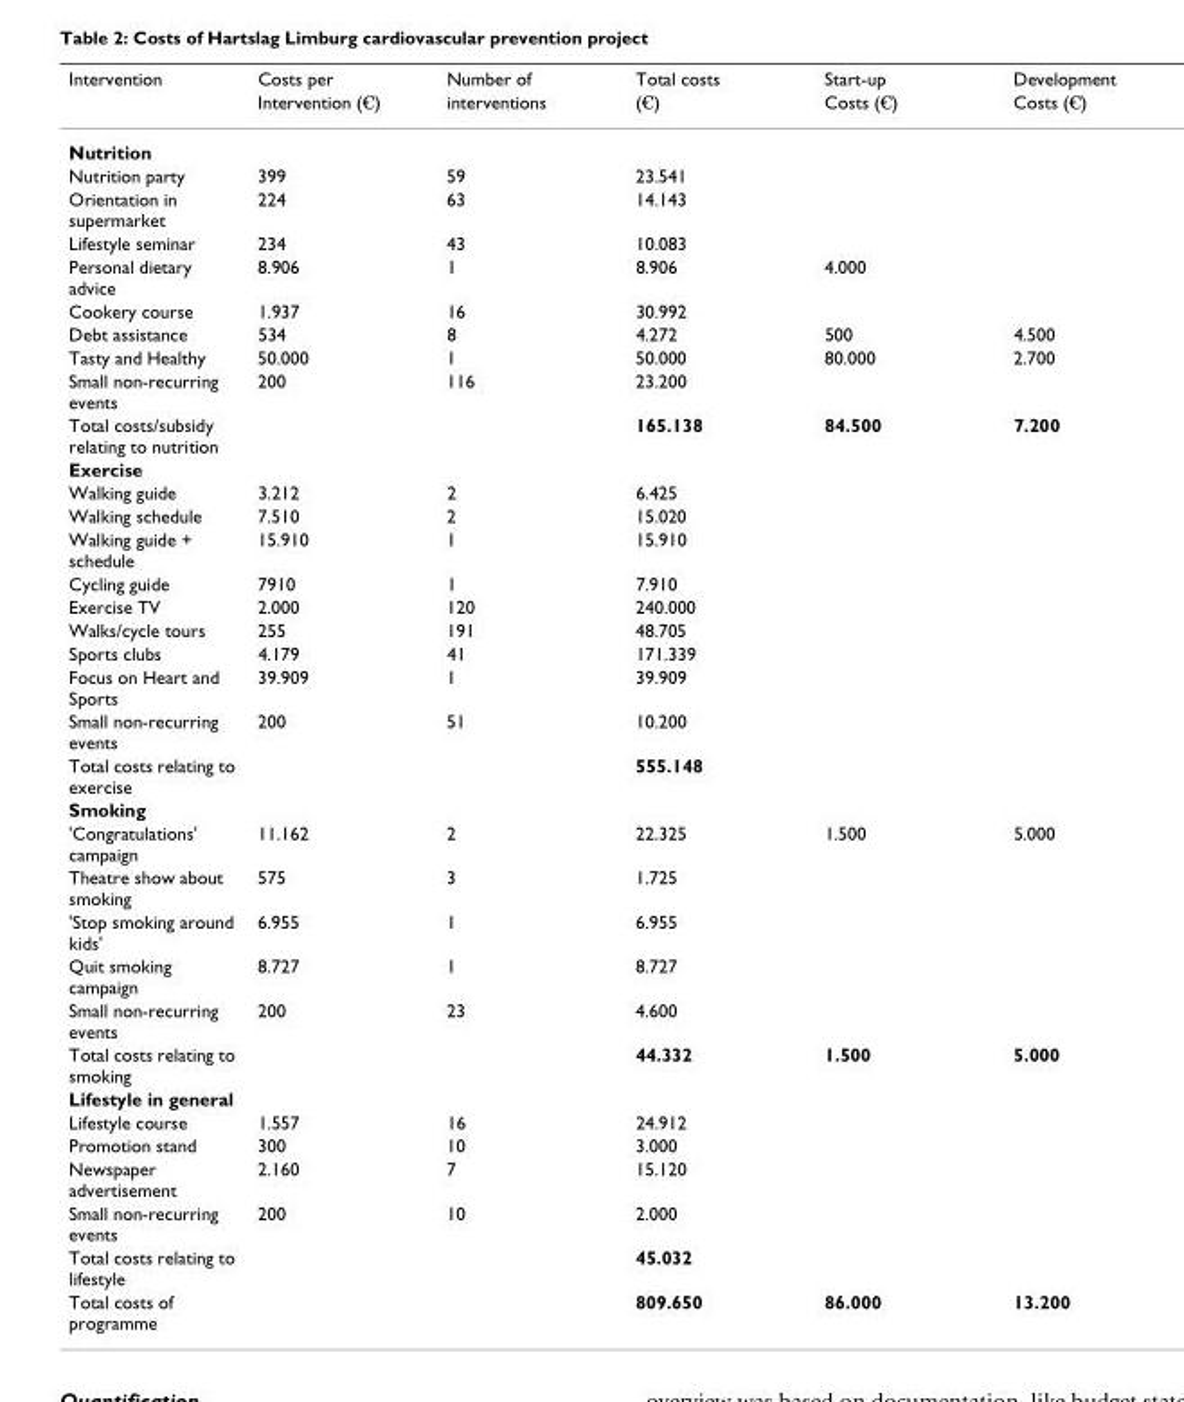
<table><thead><tr><td rowspan="2">Intervention</td><td rowspan="2">Costs per Intervention (€)</td><td rowspan="2">Number of interventions</td><td rowspan="2">Total costs (€)</td><td rowspan="2">Start-up Costs (€)</td><td rowspan="2">Development Costs (€)</td></tr><tr></tr></thead><tbody><tr><td colspan="6">Nutrition</td></tr><tr><td>Nutrition party</td><td>399</td><td>59</td><td>23.541</td><td></td><td></td></tr><tr><td>Orientation in supermarket</td><td>224</td><td>63</td><td>14.143</td><td></td><td></td></tr><tr><td>Lifestyle seminar</td><td>234</td><td>43</td><td>10.083</td><td></td><td></td></tr><tr><td>Personal dietary advice</td><td>8.906</td><td>1</td><td>8.906</td><td>4.000</td><td></td></tr><tr><td>Cookery course</td><td>1.937</td><td>16</td><td>30.992</td><td></td><td></td></tr><tr><td>Debt assistance</td><td>534</td><td>8</td><td>4.272</td><td>500</td><td>4.500</td></tr><tr><td>Tasty and Healthy</td><td>50.000</td><td>1</td><td>50.000</td><td>80.000</td><td>2.700</td></tr><tr><td>Small non-recurring events</td><td>200</td><td>116</td><td>23.200</td><td></td><td></td></tr><tr><td>Total costs/subsidy relating to nutrition</td><td></td><td></td><td>165.138</td><td>84.500</td><td>7.200</td></tr><tr><td colspan="6">Exercise</td></tr><tr><td>Walking guide</td><td>3.212</td><td>2</td><td>6.425</td><td></td><td></td></tr><tr><td>Walking schedule</td><td>7.510</td><td>2</td><td>15.020</td><td></td><td></td></tr><tr><td>Walking guide + schedule</td><td>15.910</td><td>1</td><td>15.910</td><td></td><td></td></tr><tr><td>Cycling guide</td><td>7910</td><td>1</td><td>7.910</td><td></td><td></td></tr><tr><td>Exercise TV</td><td>2.000</td><td>120</td><td>240.000</td><td></td><td></td></tr><tr><td>Walks/cycle tours</td><td>255</td><td>191</td><td>48.705</td><td></td><td></td></tr><tr><td>Sports clubs</td><td>4.179</td><td>41</td><td>171.339</td><td></td><td></td></tr><tr><td>Focus on Heart and Sports</td><td>39.909</td><td>1</td><td>39.909</td><td></td><td></td></tr><tr><td>Small non-recurring events</td><td>200</td><td>51</td><td>10.200</td><td></td><td></td></tr><tr><td>Total costs relating to exercise</td><td></td><td></td><td>555.148</td><td></td><td></td></tr><tr><td colspan="6">Smoking</td></tr><tr><td>&#x27;Congratulations&#x27; campaign</td><td>11.162</td><td>2</td><td>22.325</td><td>1.500</td><td>5.000</td></tr><tr><td>Theatre show about smoking</td><td>575</td><td>3</td><td>1.725</td><td></td><td></td></tr><tr><td>&#x27;Stop smoking around kids&#x27;</td><td>6.955</td><td>1</td><td>6.955</td><td></td><td></td></tr><tr><td>Quit smoking campaign</td><td>8.727</td><td>1</td><td>8.727</td><td></td><td></td></tr><tr><td>Small non-recurring events</td><td>200</td><td>23</td><td>4.600</td><td></td><td></td></tr><tr><td>Total costs relating to smoking</td><td></td><td></td><td>44.332</td><td>1.500</td><td>5.000</td></tr><tr><td colspan="6">Lifestyle in general</td></tr><tr><td>Lifestyle course</td><td>1.557</td><td>16</td><td>24.912</td><td></td><td></td></tr><tr><td>Promotion stand</td><td>300</td><td>10</td><td>3.000</td><td></td><td></td></tr><tr><td>Newspaper advertisement</td><td>2.160</td><td>7</td><td>15.120</td><td></td><td></td></tr><tr><td>Small non-recurring events</td><td>200</td><td>10</td><td>2.000</td><td></td><td></td></tr><tr><td>Total costs relating to lifestyle</td><td></td><td></td><td>45.032</td><td></td><td></td></tr><tr><td>Total costs of programme</td><td></td><td></td><td>809.650</td><td>86.000</td><td>13.200</td></tr></tbody></table>